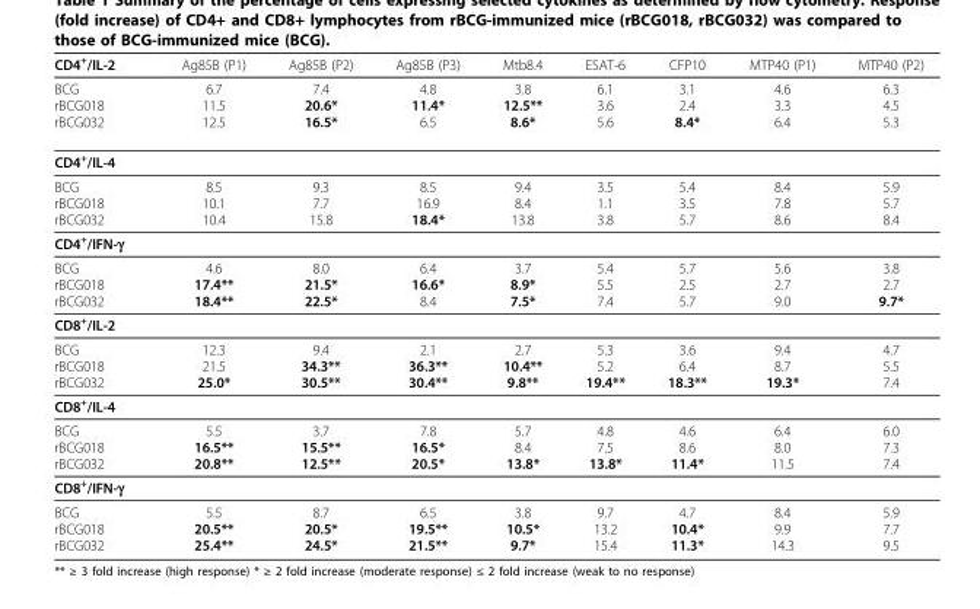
<table><thead><tr><td>CD4<sup>+</sup>/IL-2</td><td>Ag85B (P1)</td><td>Ag85B (P2)</td><td>Ag85B (P3)</td><td>Mtb8.4</td><td>ESAT-6</td><td>CFP10</td><td>MTP40 (P1)</td><td>MTP40 (P2)</td></tr></thead><tbody><tr><td>BCG rBCG018 rBCG032</td><td>6.7 11.5 12.5</td><td>7.4 20.6* 16.5*</td><td>4.8 11.4* 6.5</td><td>3.8 12.5** 8.6*</td><td>6.1 3.6 5.6</td><td>3.1 2.4 8.4*</td><td>4.6 3.3 6.4</td><td>6.3 4.5 5.3</td></tr><tr><td colspan="9">CD4<sup>+</sup>/IL-4</td></tr><tr><td>BCG rBCG018 rBCG032</td><td>8.5 10.1 10.4</td><td>9.3 7.7 15.8</td><td>8.5 16.9 18.4*</td><td>9.4 8.4 13.8</td><td>3.5 1.1 3.8</td><td>5.4 3.5 5.7</td><td>8.4 7.8 8.6</td><td>5.9 5.7 8.4</td></tr><tr><td colspan="9">CD4<sup>+</sup>/IFN-γ</td></tr><tr><td>BCG rBCG018 rBCG032</td><td>4.6 17.4** 18.4**</td><td>8.0 21.5* 22.5*</td><td>6.4 16.6* 8.4</td><td>3.7 8.9* 7.5*</td><td>5.4 5.5 7.4</td><td>5.7 2.5 5.7</td><td>5.6 2.7 9.0</td><td>3.8 2.7 9.7*</td></tr><tr><td colspan="9">CD8<sup>+</sup>/IL-2</td></tr><tr><td>BCG rBCG018 rBCG032</td><td>12.3 21.5 25.0*</td><td>9.4 34.3** 30.5**</td><td>2.1 36.3** 30.4**</td><td>2.7 10.4** 9.8**</td><td>5.3 5.2 19.4**</td><td>3.6 6.4 18.3**</td><td>9.4 8.7 19.3*</td><td>4.7 5.5 7.4</td></tr><tr><td colspan="9">CD8<sup>+</sup>/IL-4</td></tr><tr><td>BCG rBCG018 rBCG032</td><td>5.5 16.5** 20.8**</td><td>3.7 15.5** 12.5**</td><td>7.8 16.5* 20.5*</td><td>5.7 8.4 13.8*</td><td>4.8 7.5 13.8*</td><td>4.6 8.6 11.4*</td><td>6.4 8.0 11.5</td><td>6.0 7.3 7.4</td></tr><tr><td colspan="9">CD8<sup>+</sup>/IFN-γ</td></tr><tr><td>BCG rBCG018 rBCG032</td><td>5.5 20.5** 25.4**</td><td>8.7 20.5* 24.5*</td><td>6.5 19.5** 21.5**</td><td>3.8 10.5* 9.7*</td><td>9.7 13.2 15.4</td><td>4.7 10.4* 11.3*</td><td>8.4 9.9 14.3</td><td>5.9 7.7 9.5</td></tr></tbody></table>